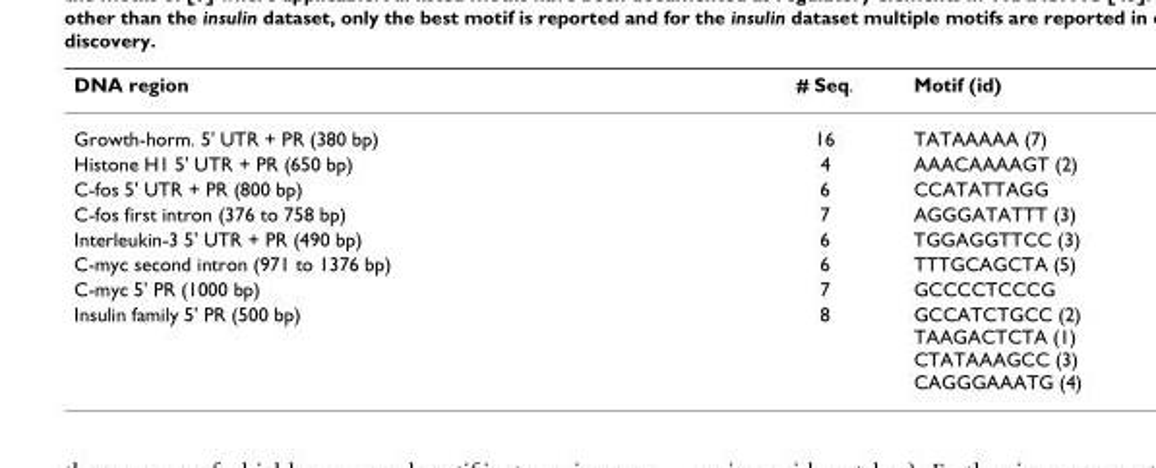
<table><thead><tr><td>DNA region</td><td># Seq.</td><td>Motif (id)</td></tr></thead><tbody><tr><td>Growth-horm. 5&#x27; UTR + PR (380 bp)</td><td>16</td><td>TATAAAAA (7)</td></tr><tr><td>Histone H1 5&#x27; UTR + PR (650 bp)</td><td>4</td><td>AAACAAAAGT (2)</td></tr><tr><td>C-fos 5&#x27; UTR + PR (800 bp)</td><td>6</td><td>CCATATTAGG</td></tr><tr><td>C-fos first intron (376 to 758 bp)</td><td>7</td><td>AGGGATATTT (3)</td></tr><tr><td>Interleukin-3 5&#x27; UTR + PR (490 bp)</td><td>6</td><td>TGGAGGTTCC (3)</td></tr><tr><td>C-myc second intron (971 to 1376 bp)</td><td>6</td><td>TTTGCAGCTA (5)</td></tr><tr><td>C-myc 5&#x27; PR (1000 bp)</td><td>7</td><td>GCCCCTCCCG</td></tr><tr><td>Insulin family 5&#x27; PR (500 bp)</td><td>8</td><td>GCCATCTGCC (2) TAAGACTCTA (1) CTATAAAGCC (3) CAGGGAAATG (4)</td></tr></tbody></table>